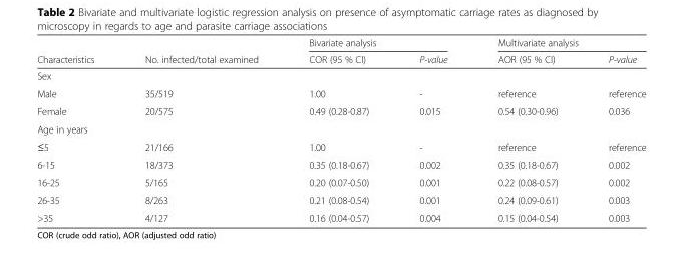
<table><thead><tr><td rowspan="2">Characteristics</td><td rowspan="2">No. infected/total examined</td><td colspan="2">Bivariate analysis</td><td colspan="2">Multivariate analysis</td></tr><tr><td>COR (95 % CI)</td><td>P-value</td><td>AOR (95 % CI)</td><td>P-value</td></tr></thead><tbody><tr><td colspan="6">Sex</td></tr><tr><td>Male</td><td>35/519</td><td>1.00</td><td>-</td><td>reference</td><td>reference</td></tr><tr><td>Female</td><td>20/575</td><td>0.49 (0.28-0.87)</td><td>0.015</td><td>0.54 (0.30-0.96)</td><td>0.036</td></tr><tr><td colspan="6">Age in years</td></tr><tr><td>≤5</td><td>21/166</td><td>1.00</td><td>-</td><td>reference</td><td>reference</td></tr><tr><td>6-15</td><td>18/373</td><td>0.35 (0.18-0.67)</td><td>0.002</td><td>0.35 (0.18-0.67)</td><td>0.002</td></tr><tr><td>16-25</td><td>5/165</td><td>0.20 (0.07-0.50)</td><td>0.001</td><td>0.22 (0.08-0.57)</td><td>0.002</td></tr><tr><td>26-35</td><td>8/263</td><td>0.21 (0.08-0.54)</td><td>0.001</td><td>0.24 (0.09-0.61)</td><td>0.003</td></tr><tr><td>&gt;35</td><td>4/127</td><td>0.16 (0.04-0.57)</td><td>0.004</td><td>0.15 (0.04-0.54)</td><td>0.003</td></tr></tbody></table>